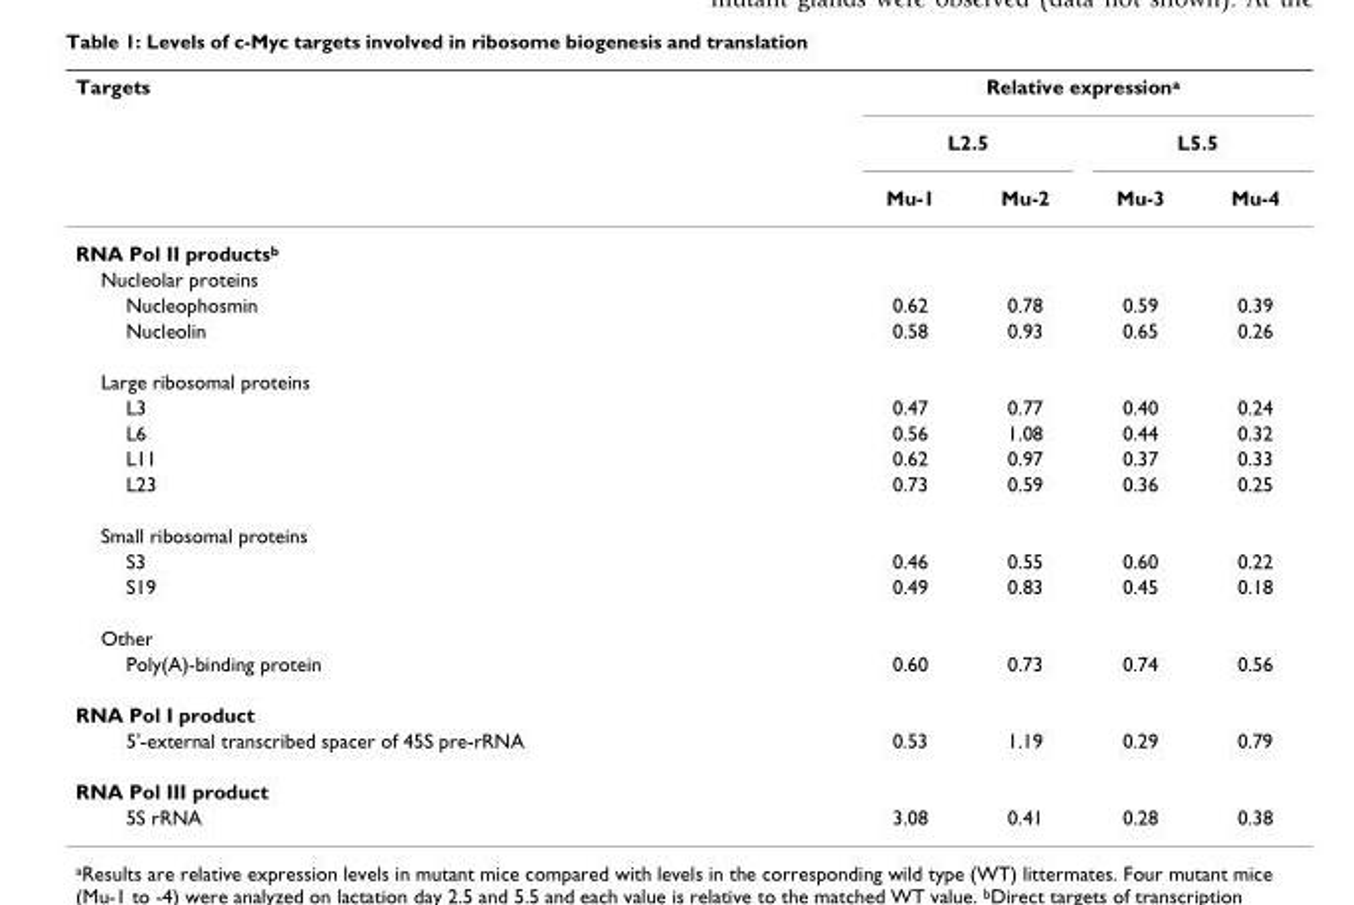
<table><thead><tr><td rowspan="3">Targets</td><td colspan="4">Relative expression<sup>a</sup></td></tr><tr><td colspan="2">L2.5</td><td colspan="2">L5.5</td></tr><tr><td>Mu-1</td><td>Mu-2</td><td>Mu-3</td><td>Mu-4</td></tr></thead><tbody><tr><td colspan="5">RNA Pol II products<sup>b</sup></td></tr><tr><td colspan="5">Nucleolar proteins</td></tr><tr><td>Nucleophosmin</td><td>0.62</td><td>0.78</td><td>0.59</td><td>0.39</td></tr><tr><td>Nucleolin</td><td>0.58</td><td>0.93</td><td>0.65</td><td>0.26</td></tr><tr><td colspan="5">Large ribosomal proteins</td></tr><tr><td>L3</td><td>0.47</td><td>0.77</td><td>0.40</td><td>0.24</td></tr><tr><td>L6</td><td>0.56</td><td>1.08</td><td>0.44</td><td>0.32</td></tr><tr><td>L11</td><td>0.62</td><td>0.97</td><td>0.37</td><td>0.33</td></tr><tr><td>L23</td><td>0.73</td><td>0.59</td><td>0.36</td><td>0.25</td></tr><tr><td colspan="5">Small ribosomal proteins</td></tr><tr><td>S3</td><td>0.46</td><td>0.55</td><td>0.60</td><td>0.22</td></tr><tr><td>S19</td><td>0.49</td><td>0.83</td><td>0.45</td><td>0.18</td></tr><tr><td colspan="5">Other</td></tr><tr><td>Poly(A)-binding protein</td><td>0.60</td><td>0.73</td><td>0.74</td><td>0.56</td></tr><tr><td colspan="5">RNA Pol I product</td></tr><tr><td>5&#x27;-external transcribed spacer of 45S pre-rRNA</td><td>0.53</td><td>1.19</td><td>0.29</td><td>0.79</td></tr><tr><td colspan="5">RNA Pol III product</td></tr><tr><td>5S rRNA</td><td>3.08</td><td>0.41</td><td>0.28</td><td>0.38</td></tr></tbody></table>